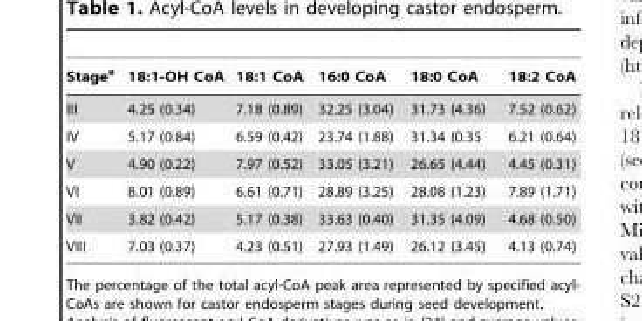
<table><thead><tr><td>Stage<sup>a</sup></td><td>18:1-OH CoA</td><td>18:1 CoA</td><td>16:0 CoA</td><td>18:0 CoA</td><td>18:2 CoA</td></tr></thead><tbody><tr><td>III</td><td>4.25 (0.34)</td><td>7.18 (0.89)</td><td>32.25 (3.04)</td><td>31.73 (4.36)</td><td>7.52 (0.62)</td></tr><tr><td>IV</td><td>5.17 (0.84)</td><td>6.59 (0.42)</td><td>23.74 (1.88)</td><td>31.34 (0.35</td><td>6.21 (0.64)</td></tr><tr><td>V</td><td>4.90 (0.22)</td><td>7.97 (0.52)</td><td>33.05 (3.21)</td><td>26.65 (4.44)</td><td>4.45 (0.31)</td></tr><tr><td>VI</td><td>8.01 (0.89)</td><td>6.61 (0.71)</td><td>28.89 (3.25)</td><td>28.08 (1.23)</td><td>7.89 (1.71)</td></tr><tr><td>VII</td><td>3.82 (0.42)</td><td>5.17 (0.38)</td><td>33.63 (0.40)</td><td>31.35 (4.09)</td><td>4.68 (0.50)</td></tr><tr><td>VIII</td><td>7.03 (0.37)</td><td>4.23 (0.51)</td><td>27.93 (1.49)</td><td>26.12 (3.45)</td><td>4.13 (0.74)</td></tr></tbody></table>